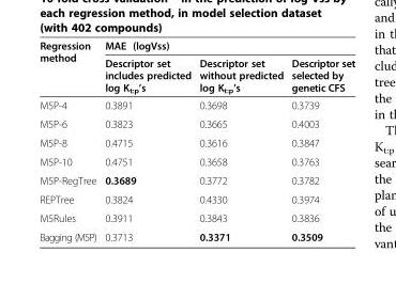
<table><thead><tr><td rowspan="2">Regression method</td><td colspan="3">MAE (logVss)</td></tr><tr><td>Descriptor set includes predicted log K<sub>t:p</sub>’s</td><td>Descriptor set without predicted log K<sub>t:p</sub>’s</td><td>Descriptor set selected by genetic CFS</td></tr></thead><tbody><tr><td>M5P-4</td><td>0.3891</td><td>0.3698</td><td>0.3739</td></tr><tr><td>M5P-6</td><td>0.3823</td><td>0.3665</td><td>0.4003</td></tr><tr><td>M5P-8</td><td>0.4715</td><td>0.3616</td><td>0.3847</td></tr><tr><td>M5P-10</td><td>0.4751</td><td>0.3658</td><td>0.3763</td></tr><tr><td>M5P-RegTree</td><td>0.3689</td><td>0.3772</td><td>0.3782</td></tr><tr><td>REPTree</td><td>0.3824</td><td>0.4330</td><td>0.3974</td></tr><tr><td>M5Rules</td><td>0.3911</td><td>0.3843</td><td>0.3836</td></tr><tr><td>Bagging (M5P)</td><td>0.3713</td><td>0.3371</td><td>0.3509</td></tr></tbody></table>